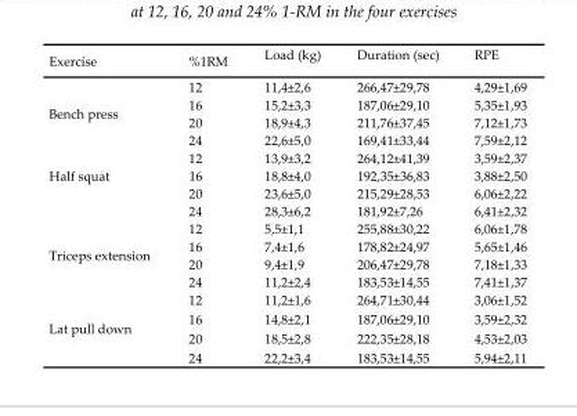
<table><thead><tr><td>Exercíse</td><td>%1RM</td><td>Load (kg)</td><td>Duration (sec)</td><td>RPE</td></tr></thead><tbody><tr><td rowspan="4">Bench press</td><td>12</td><td>11,4±2,6</td><td>266,47±29,78</td><td>4,29±1,69</td></tr><tr><td>16</td><td>15,2±3,3</td><td>187,06±29,10</td><td>5,35±1,93</td></tr><tr><td>20</td><td>18,9±4,3</td><td>211,76±37,45</td><td>7,12±1,73</td></tr><tr><td>24</td><td>22,6±5,0</td><td>169,41±33,44</td><td>7,59±2,12</td></tr><tr><td rowspan="4">Half squat</td><td>12</td><td>13,9±3,2</td><td>264,12±41,39</td><td>3,59±2,37</td></tr><tr><td>16</td><td>18,8±4,0</td><td>192,35±36,83</td><td>3,88±2,50</td></tr><tr><td>20</td><td>23,6±5,0</td><td>215,29±28,53</td><td>6,06±2,22</td></tr><tr><td>24</td><td>28,3±6,2</td><td>181,92±7,26</td><td>6,41±2,32</td></tr><tr><td rowspan="4">Triceps extension</td><td>12</td><td>5,5±1,1</td><td>255,88±30,22</td><td>6,06±1,78</td></tr><tr><td>16</td><td>7,4±1,6</td><td>178,82±24,97</td><td>5,65±1,46</td></tr><tr><td>20</td><td>9,4±1,9</td><td>206,47±29,78</td><td>7,18±1,33</td></tr><tr><td>24</td><td>11,2±2,4</td><td>183,53±14,55</td><td>7,41±1,37</td></tr><tr><td rowspan="4">Lat pull down</td><td>12</td><td>11,2±1,6</td><td>264,71±30,44</td><td>3,06±1,52</td></tr><tr><td>16</td><td>14,8±2,1</td><td>187,06±29,10</td><td>3,59±2,32</td></tr><tr><td>20</td><td>18,5±2,8</td><td>222,35±28,18</td><td>4,53±2,03</td></tr><tr><td>24</td><td>22,2±3,4</td><td>183,53±14,55</td><td>5,94±2,11</td></tr></tbody></table>